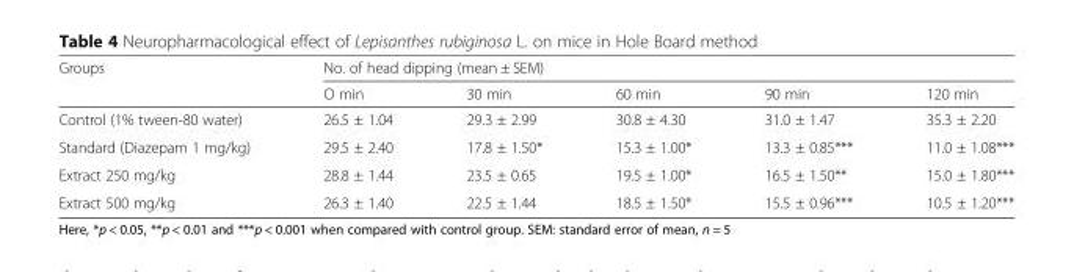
<table><thead><tr><td rowspan="2">Groups</td><td colspan="5">No. of head dipping (mean ± SEM)</td></tr><tr><td>O min</td><td>30 min</td><td>60 min</td><td>90 min</td><td>120 min</td></tr></thead><tbody><tr><td>Control (1% tween-80 water)</td><td>26.5 ± 1.04</td><td>29.3 ± 2.99</td><td>30.8 ± 4.30</td><td>31.0 ± 1.47</td><td>35.3 ± 2.20</td></tr><tr><td>Standard (Diazepam 1 mg/kg)</td><td>29.5 ± 2.40</td><td>17.8 ± 1.50*</td><td>15.3 ± 1.00*</td><td>13.3 ± 0.85***</td><td>11.0 ± 1.08***</td></tr><tr><td>Extract 250 mg/kg</td><td>28.8 ± 1.44</td><td>23.5 ± 0.65</td><td>19.5 ± 1.00*</td><td>16.5 ± 1.50**</td><td>15.0 ± 1.80***</td></tr><tr><td>Extract 500 mg/kg</td><td>26.3 ± 1.40</td><td>22.5 ± 1.44</td><td>18.5 ± 1.50*</td><td>15.5 ± 0.96***</td><td>10.5 ± 1.20***</td></tr></tbody></table>